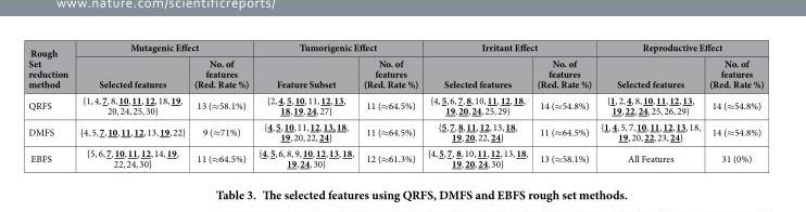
<table><thead><tr><td rowspan="2">Rough Set reduction method</td><td colspan="2">Mutagenic Effect</td><td colspan="2">Tumorigenic Effect</td><td colspan="2">Irritant Effect</td><td colspan="2">Reproductive Effect</td></tr><tr><td>Selected features</td><td>No. of features (Red. Rate %)</td><td>Feature Subset</td><td>No. of features (Red. Rate %)</td><td>Selected features</td><td>No. of features (Red. Rate %)</td><td>Selected features</td><td>No. of features (Red. Rate %)</td></tr></thead><tbody><tr><td>QRFS</td><td>{1, 4, 7, 8, 10, 11, 12, 18, 19, 20, 24, 25, 30}</td><td>13 (≈ 58.1%)</td><td>{2, 4, 5, 10, 11, 12, 13, 18, 19, 24, 27}</td><td>11 (≈ 64.5%)</td><td>{4, 5, 6, 7, 8, 10, 11, 12, 18, 19, 20, 24, 25, 29}</td><td>14 (≈ 54.8%)</td><td>{1, 2, 4, 8, 10, 11, 12, 13, 19, 22, 24, 25, 26, 29}</td><td>14 (≈ 54.8%)</td></tr><tr><td>DMFS</td><td>{4, 5, 7, 10, 11, 12, 13, 19, 22}</td><td>9 (≈ 71%)</td><td>{4, 5, 10, 11, 12, 13, 18, 19, 20, 22, 24}</td><td>11 (≈ 64.5%)</td><td>{5, 7, 8, 11, 12, 13, 18, 19, 20, 22, 24}</td><td>11 (≈ 64.5%)</td><td>{1, 4, 5, 7, 10, 11, 12, 13, 18, 19, 20, 22, 23, 24}</td><td>14 (≈ 54.8%)</td></tr><tr><td>EBFS</td><td>{5, 6, 7, 10, 11, 12, 14, 19, 22, 24, 30}</td><td>11 (≈ 64.5%)</td><td>{4, 5, 6, 8, 9, 10, 12, 13, 18, 19, 24, 30}</td><td>12 (≈ 61.3%)</td><td>{4, 5, 7, 8, 10, 11, 12, 13, 18, 19, 20, 24, 30}</td><td>13 (≈ 58.1%)</td><td>All Features</td><td>31 (0%)</td></tr></tbody></table>